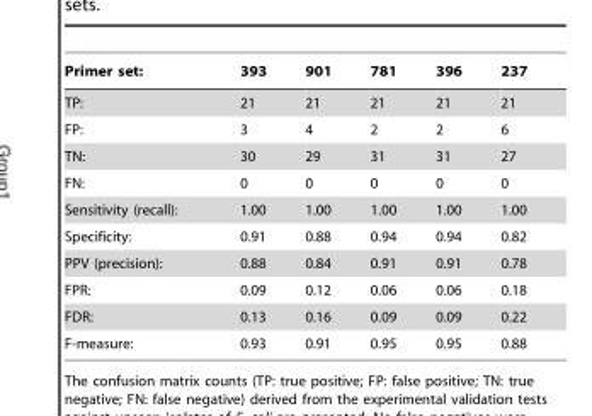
<table><thead><tr><td>Primer set:</td><td>393</td><td>901</td><td>781</td><td>396</td><td>237</td></tr></thead><tbody><tr><td>TP:</td><td>21</td><td>21</td><td>21</td><td>21</td><td>21</td></tr><tr><td>FP:</td><td>3</td><td>4</td><td>2</td><td>2</td><td>6</td></tr><tr><td>TN:</td><td>30</td><td>29</td><td>31</td><td>31</td><td>27</td></tr><tr><td>FN:</td><td>0</td><td>0</td><td>0</td><td>0</td><td>0</td></tr><tr><td>Sensitivity (recall):</td><td>1.00</td><td>1.00</td><td>1.00</td><td>1.00</td><td>1.00</td></tr><tr><td>Specificity:</td><td>0.91</td><td>0.88</td><td>0.94</td><td>0.94</td><td>0.82</td></tr><tr><td>PPV (precision):</td><td>0.88</td><td>0.84</td><td>0.91</td><td>0.91</td><td>0.78</td></tr><tr><td>FPR:</td><td>0.09</td><td>0.12</td><td>0.06</td><td>0.06</td><td>0.18</td></tr><tr><td>FDR:</td><td>0.13</td><td>0.16</td><td>0.09</td><td>0.09</td><td>0.22</td></tr><tr><td>F-measure:</td><td>0.93</td><td>0.91</td><td>0.95</td><td>0.95</td><td>0.88</td></tr></tbody></table>